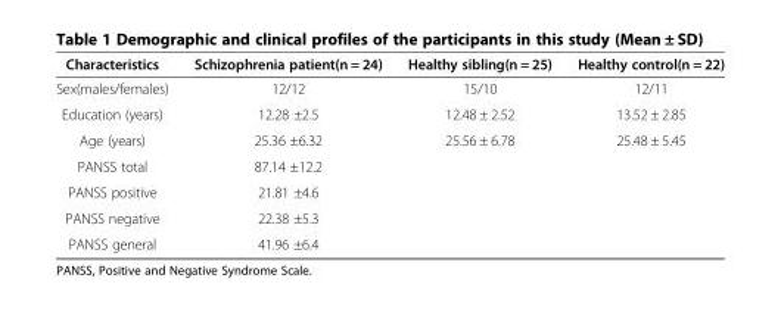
<table><thead><tr><td>Characteristics</td><td>Schizophrenia patient(n = 24)</td><td>Healthy sibling(n = 25)</td><td>Healthy control(n = 22)</td></tr></thead><tbody><tr><td>Sex(males/females)</td><td>12/12</td><td>15/10</td><td>12/11</td></tr><tr><td>Education (years)</td><td>12.28 ±2.5</td><td>12.48 ± 2.52</td><td>13.52 ± 2.85</td></tr><tr><td>Age (years)</td><td>25.36 ±6.32</td><td>25.56 ± 6.78</td><td>25.48 ± 5.45</td></tr><tr><td>PANSS total</td><td>87.14 ±12.2</td><td></td><td></td></tr><tr><td>PANSS positive</td><td>21.81 ±4.6</td><td></td><td></td></tr><tr><td>PANSS negative</td><td>22.38 ±5.3</td><td></td><td></td></tr><tr><td>PANSS general</td><td>41.96 ±6.4</td><td></td><td></td></tr></tbody></table>